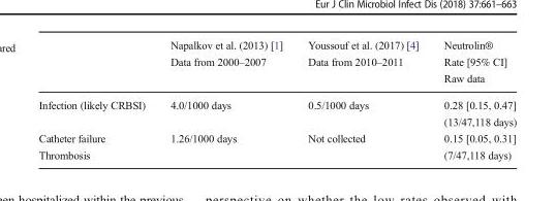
<table><thead><tr><td></td><td>Napalkov et al. (2013) [1] Data from 2000–2007</td><td>Youssouf et al. (2017) [4] Data from 2010–2011</td><td>Neutrolin® Rate [95% CI] Raw data</td></tr></thead><tbody><tr><td>Infection (likely CRBSI)</td><td>4.0/1000 days</td><td>0.5/1000 days</td><td>0.28 [0.15, 0.47] (13/47,118 days)</td></tr><tr><td>Catheter failure Thrombosis</td><td>1.26/1000 days</td><td>Not collected</td><td>0.15 [0.05, 0.31] (7/47,118 days)</td></tr></tbody></table>